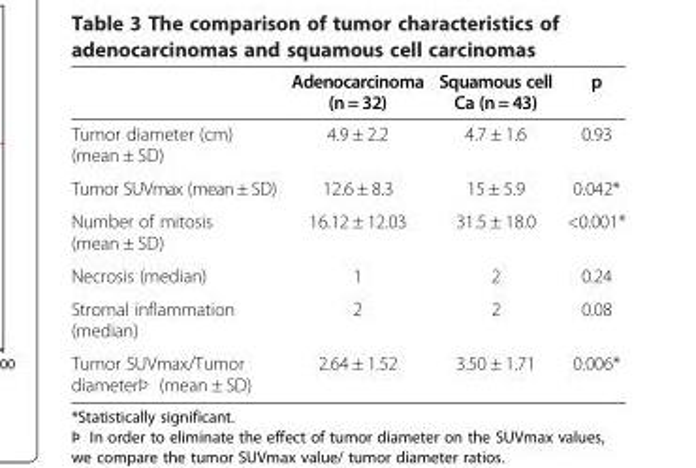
<table><thead><tr><td></td><td>Adenocarcinoma (n = 32)</td><td>Squamous cell Ca (n = 43)</td><td>p</td></tr></thead><tbody><tr><td>Tumor diameter (cm) (mean ± SD)</td><td>4.9 ± 2.2</td><td>4.7 ± 1.6</td><td>0.93</td></tr><tr><td>Tumor SUVmax (mean ± SD)</td><td>12.6 ± 8.3</td><td>15 ± 5.9</td><td>0.042*</td></tr><tr><td>Number of mitosis (mean ± SD)</td><td>16.12 ± 12.03</td><td>31.5 ± 18.0</td><td>&lt;0.001*</td></tr><tr><td>Necrosis (median)</td><td>1</td><td>2</td><td>0.24</td></tr><tr><td>Stromal inflammation (median)</td><td>2</td><td>2</td><td>0.08</td></tr><tr><td>Tumor SUVmax/Tumor diameterÞ (mean ± SD)</td><td>2.64 ± 1.52</td><td>3.50 ± 1.71</td><td>0.006*</td></tr></tbody></table>